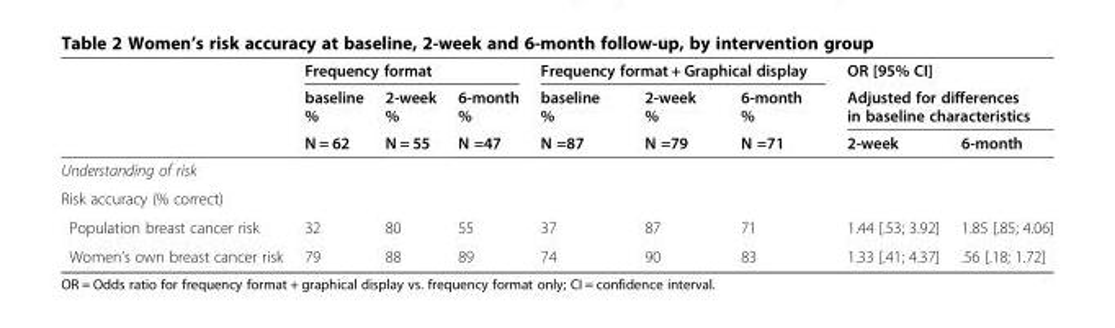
<table><thead><tr><td rowspan="3"></td><td colspan="3">Frequency format</td><td colspan="3">Frequency format + Graphical display</td><td rowspan="2" colspan="2">OR [95% CI] Adjusted for differences in baseline characteristics</td></tr><tr><td rowspan="2">baseline % N = 62</td><td rowspan="2">2-week % N = 55</td><td rowspan="2">6-month % N =47</td><td rowspan="2">baseline % N =87</td><td rowspan="2">2-week % N =79</td><td rowspan="2">6-month % N =71</td></tr><tr><td>2-week</td><td>6-month</td></tr></thead><tbody><tr><td colspan="9">Understanding of risk</td></tr><tr><td colspan="9">Risk accuracy (% correct)</td></tr><tr><td>Population breast cancer risk</td><td>32</td><td>80</td><td>55</td><td>37</td><td>87</td><td>71</td><td>1.44 [.53; 3.92]</td><td>1.85 [.85; 4.06]</td></tr><tr><td>Women’s own breast cancer risk</td><td>79</td><td>88</td><td>89</td><td>74</td><td>90</td><td>83</td><td>1.33 [.41; 4.37]</td><td>.56 [.18; 1.72]</td></tr></tbody></table>